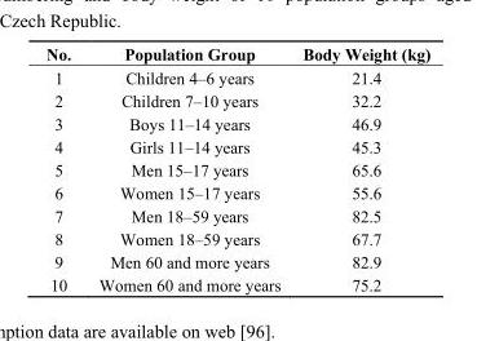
<table><thead><tr><td>No.</td><td>Population Group</td><td>Body Weight (kg)</td></tr></thead><tbody><tr><td>1</td><td>Children 4–6 years</td><td>21.4</td></tr><tr><td>2</td><td>Children 7–10 years</td><td>32.2</td></tr><tr><td>3</td><td>Boys 11–14 years</td><td>46.9</td></tr><tr><td>4</td><td>Girls 11–14 years</td><td>45.3</td></tr><tr><td>5</td><td>Men 15–17 years</td><td>65.6</td></tr><tr><td>6</td><td>Women 15–17 years</td><td>55.6</td></tr><tr><td>7</td><td>Men 18–59 years</td><td>82.5</td></tr><tr><td>8</td><td>Women 18–59 years</td><td>67.7</td></tr><tr><td>9</td><td>Men 60 and more years</td><td>82.9</td></tr><tr><td>10</td><td>Women 60 and more years</td><td>75.2</td></tr></tbody></table>